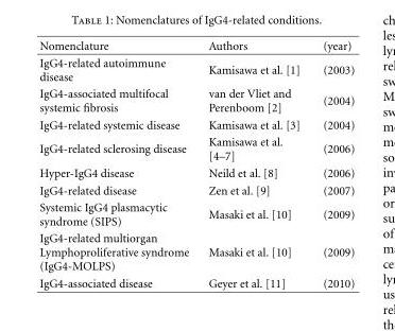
<table><thead><tr><td>Nomenclature</td><td>Authors</td><td>(year)</td></tr></thead><tbody><tr><td>IgG4-related autoimmune disease</td><td>Kamisawa et al. [1]</td><td>(2003)</td></tr><tr><td>IgG4-associated multifocal systemic fibrosis</td><td>van der Vliet and Perenboom [2]</td><td>(2004)</td></tr><tr><td>IgG4-related systemic disease</td><td>Kamisawa et al. [3]</td><td>(2004)</td></tr><tr><td>IgG4-related sclerosing disease</td><td>Kamisawa et al. [4–7]</td><td>(2006)</td></tr><tr><td>Hyper-IgG4 disease</td><td>Neild et al. [8]</td><td>(2006)</td></tr><tr><td>IgG4-related disease</td><td>Zen et al. [9]</td><td>(2007)</td></tr><tr><td>Systemic IgG4 plasmacytic syndrome (SIPS)</td><td>Masaki et al. [10]</td><td>(2009)</td></tr><tr><td>IgG4-related multiorgan Lymphoproliferative syndrome (IgG4-MOLPS)</td><td>Masaki et al. [10]</td><td>(2009)</td></tr><tr><td>IgG4-associated disease</td><td>Geyer et al. [11]</td><td>(2010)</td></tr></tbody></table>